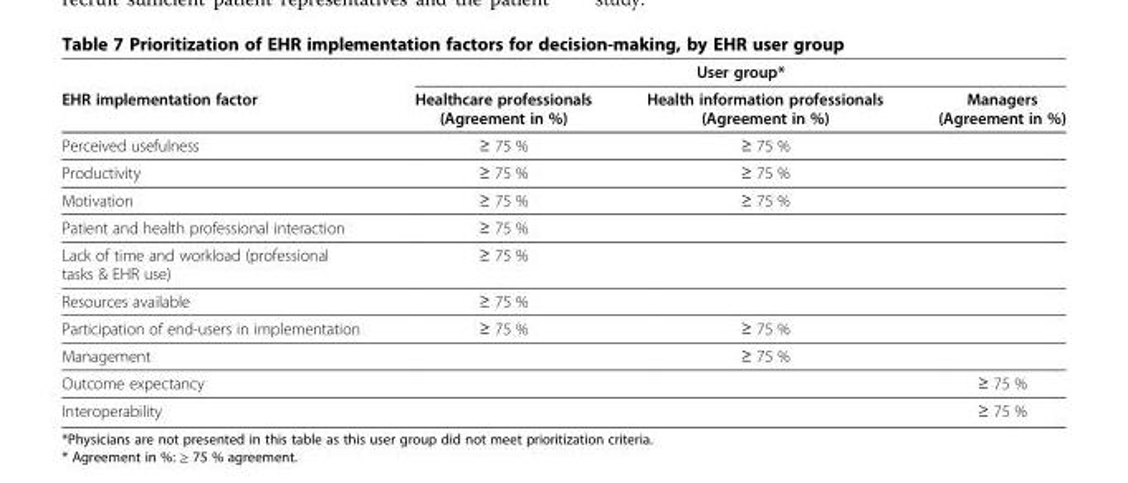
<table><thead><tr><td rowspan="2">EHR implementation factor</td><td colspan="3">User group*</td></tr><tr><td>Healthcare professionals (Agreement in %)</td><td>Health information professionals (Agreement in %)</td><td>Managers (Agreement in %)</td></tr></thead><tbody><tr><td>Perceived usefulness</td><td>≥ 75 %</td><td>≥ 75 %</td><td></td></tr><tr><td>Productivity</td><td>≥ 75 %</td><td>≥ 75 %</td><td></td></tr><tr><td>Motivation</td><td>≥ 75 %</td><td>≥ 75 %</td><td></td></tr><tr><td>Patient and health professional interaction</td><td>≥ 75 %</td><td></td><td></td></tr><tr><td>Lack of time and workload (professional tasks &amp; EHR use)</td><td>≥ 75 %</td><td></td><td></td></tr><tr><td>Resources available</td><td>≥ 75 %</td><td></td><td></td></tr><tr><td>Participation of end-users in implementation</td><td>≥ 75 %</td><td>≥ 75 %</td><td></td></tr><tr><td>Management</td><td></td><td>≥ 75 %</td><td></td></tr><tr><td>Outcome expectancy</td><td></td><td></td><td>≥ 75 %</td></tr><tr><td>Interoperability</td><td></td><td></td><td>≥ 75 %</td></tr></tbody></table>